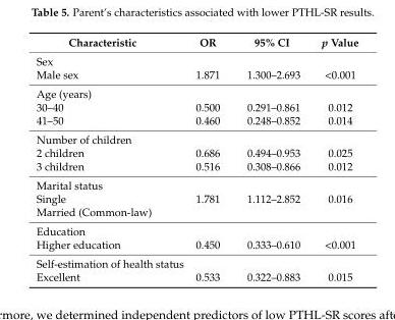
<table><thead><tr><td>Characteristic</td><td>OR</td><td>95% CI</td><td>p Value</td></tr></thead><tbody><tr><td colspan="4">Sex</td></tr><tr><td>Male sex</td><td>1.871</td><td>1.300–2.693</td><td>&lt;0.001</td></tr><tr><td colspan="4">Age (years)</td></tr><tr><td>30–40</td><td>0.500</td><td>0.291–0.861</td><td>0.012</td></tr><tr><td>41–50</td><td>0.460</td><td>0.248–0.852</td><td>0.014</td></tr><tr><td colspan="4">Number of children</td></tr><tr><td>2 children</td><td>0.686</td><td>0.494–0.953</td><td>0.025</td></tr><tr><td>3 children</td><td>0.516</td><td>0.308–0.866</td><td>0.012</td></tr><tr><td colspan="4">Marital status</td></tr><tr><td>Single</td><td>1.781</td><td>1.112–2.852</td><td>0.016</td></tr><tr><td colspan="4">Married (Common-law)</td></tr><tr><td colspan="4">Education</td></tr><tr><td>Higher education</td><td>0.450</td><td>0.333–0.610</td><td>&lt;0.001</td></tr><tr><td colspan="4">Self-estimation of health status</td></tr><tr><td>Excellent</td><td>0.533</td><td>0.322–0.883</td><td>0.015</td></tr></tbody></table>